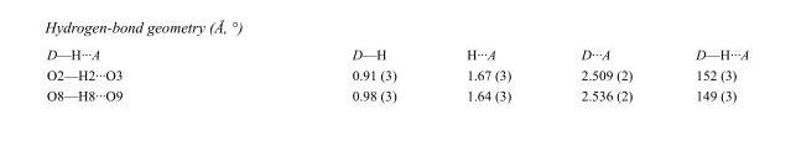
<table><tbody><tr><td>D—H···A</td><td>D—H</td><td>H···A</td><td>D···A</td><td>D—H···A</td></tr><tr><td>O2—H2···O3</td><td>0.91 (3)</td><td>1.67 (3)</td><td>2.509 (2)</td><td>152 (3)</td></tr><tr><td>O8—H8···O9</td><td>0.98 (3)</td><td>1.64 (3)</td><td>2.536 (2)</td><td>149 (3)</td></tr></tbody></table>